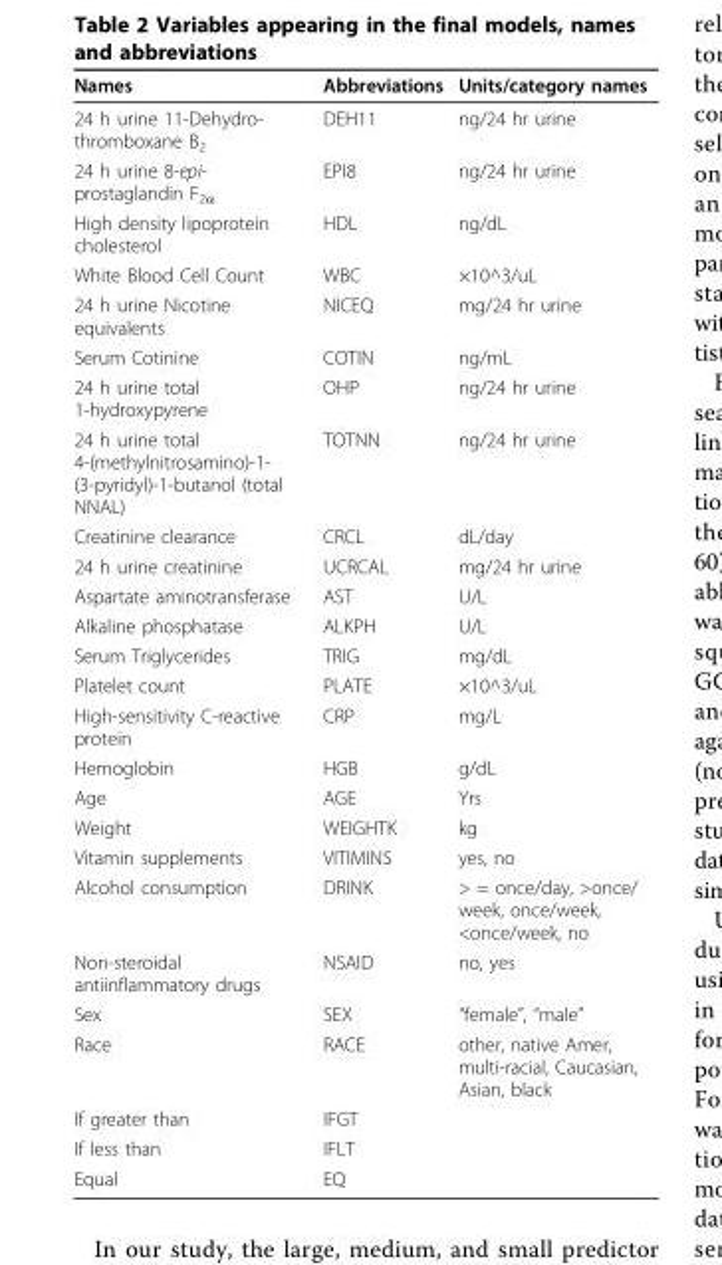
<table><thead><tr><td>Names</td><td>Abbreviations</td><td>Units/category names</td></tr></thead><tbody><tr><td>24 h urine 11-Dehydro- thromboxane B<sub>2</sub></td><td>DEH11</td><td>ng/24 hr urine</td></tr><tr><td>24 h urine 8-epi- prostaglandin F<sub>2α</sub></td><td>EPI8</td><td>ng/24 hr urine</td></tr><tr><td>High density lipoprotein cholesterol</td><td>HDL</td><td>ng/dL</td></tr><tr><td>White Blood Cell Count</td><td>WBC</td><td>×10^3/uL</td></tr><tr><td>24 h urine Nicotine equivalents</td><td>NICEQ</td><td>mg/24 hr urine</td></tr><tr><td>Serum Cotinine</td><td>COTIN</td><td>ng/mL</td></tr><tr><td>24 h urine total 1-hydroxypyrene</td><td>OHP</td><td>ng/24 hr urine</td></tr><tr><td>24 h urine total 4-(methylnitrosamino)-1- (3-pyridyl)-1-butanol (total NNAL)</td><td>TOTNN</td><td>ng/24 hr urine</td></tr><tr><td>Creatinine clearance</td><td>CRCL</td><td>dL/day</td></tr><tr><td>24 h urine creatinine</td><td>UCRCAL</td><td>mg/24 hr urine</td></tr><tr><td>Aspartate aminotransferase</td><td>AST</td><td>U/L</td></tr><tr><td>Alkaline phosphatase</td><td>ALKPH</td><td>U/L</td></tr><tr><td>Serum Triglycerides</td><td>TRIG</td><td>mg/dL</td></tr><tr><td>Platelet count</td><td>PLATE</td><td>×10^3/uL</td></tr><tr><td>High-sensitivity C-reactive protein</td><td>CRP</td><td>mg/L</td></tr><tr><td>Hemoglobin</td><td>HGB</td><td>g/dL</td></tr><tr><td>Age</td><td>AGE</td><td>Yrs</td></tr><tr><td>Weight</td><td>WEIGHTK</td><td>kg</td></tr><tr><td>Vitamin supplements</td><td>VITIMINS</td><td>yes, no</td></tr><tr><td>Alcohol consumption</td><td>DRINK</td><td>&gt; = once/day, &gt;once/ week, once/week, &lt;once/week, no</td></tr><tr><td>Non-steroidal antiinflammatory drugs</td><td>NSAID</td><td>no, yes</td></tr><tr><td>Sex</td><td>SEX</td><td>“female”, “male”</td></tr><tr><td>Race</td><td>RACE</td><td>other, native Amer, multi-racial, Caucasian, Asian, black</td></tr><tr><td>If greater than</td><td>IFGT</td><td></td></tr><tr><td>If less than</td><td>IFLT</td><td></td></tr><tr><td>Equal</td><td>EQ</td><td></td></tr></tbody></table>